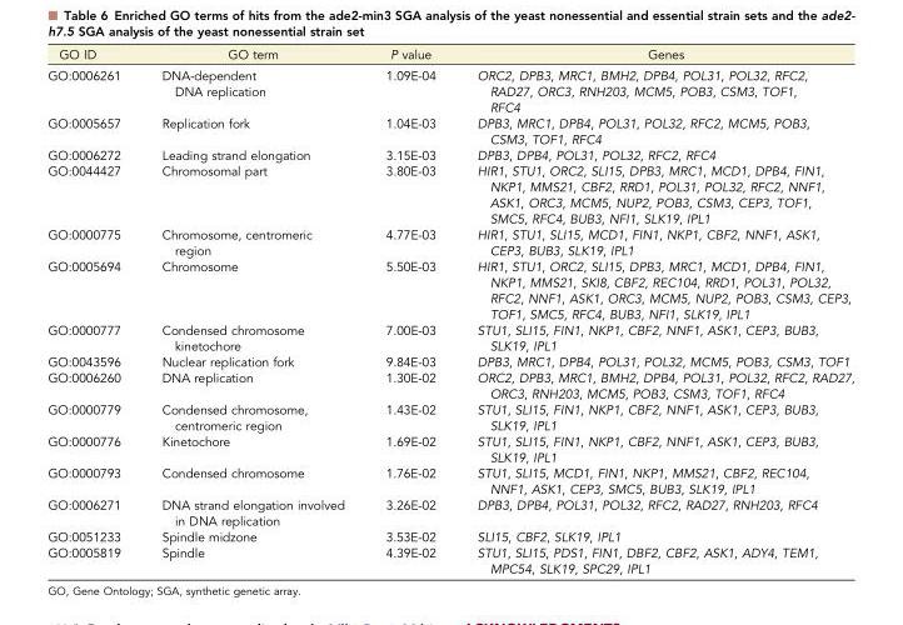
<table><thead><tr><td>GO ID</td><td>GO term</td><td>P value</td><td>Genes</td></tr></thead><tbody><tr><td>GO:0006261</td><td>DNA-dependent DNA replication</td><td>1.09E-04</td><td>ORC2, DPB3, MRC1, BMH2, DPB4, POL31, POL32, RFC2, RAD27, ORC3, RNH203, MCM5, POB3, CSM3, TOF1, RFC4</td></tr><tr><td>GO:0005657</td><td>Replication fork</td><td>1.04E-03</td><td>DPB3, MRC1, DPB4, POL31, POL32, RFC2, MCM5, POB3, CSM3, TOF1, RFC4</td></tr><tr><td>GO:0006272</td><td>Leading strand elongation</td><td>3.15E-03</td><td>DPB3, DPB4, POL31, POL32, RFC2, RFC4</td></tr><tr><td>GO:0044427</td><td>Chromosomal part</td><td>3.80E-03</td><td>HIR1, STU1, ORC2, SLI15, DPB3, MRC1, MCD1, DPB4, FIN1, NKP1, MMS21, CBF2, RRD1, POL31, POL32, RFC2, NNF1, ASK1, ORC3, MCM5, NUP2, POB3, CSM3, CEP3, TOF1, SMC5, RFC4, BUB3, NFI1, SLK19, IPL1</td></tr><tr><td>GO:0000775</td><td>Chromosome, centromeric region</td><td>4.77E-03</td><td>HIR1, STU1, SLI15, MCD1, FIN1, NKP1, CBF2, NNF1, ASK1, CEP3, BUB3, SLK19, IPL1</td></tr><tr><td>GO:0005694</td><td>Chromosome</td><td>5.50E-03</td><td>HIR1, STU1, ORC2, SLI15, DPB3, MRC1, MCD1, DPB4, FIN1, NKP1, MMS21, SKI8, CBF2, REC104, RRD1, POL31, POL32, RFC2, NNF1, ASK1, ORC3, MCM5, NUP2, POB3, CSM3, CEP3, TOF1, SMC5, RFC4, BUB3, NFI1, SLK19, IPL1</td></tr><tr><td>GO:0000777</td><td>Condensed chromosome kinetochore</td><td>7.00E-03</td><td>STU1, SLI15, FIN1, NKP1, CBF2, NNF1, ASK1, CEP3, BUB3, SLK19, IPL1</td></tr><tr><td>GO:0043596</td><td>Nuclear replication fork</td><td>9.84E-03</td><td>DPB3, MRC1, DPB4, POL31, POL32, MCM5, POB3, CSM3, TOF1</td></tr><tr><td>GO:0006260</td><td>DNA replication</td><td>1.30E-02</td><td>ORC2, DPB3, MRC1, BMH2, DPB4, POL31, POL32, RFC2, RAD27, ORC3, RNH203, MCM5, POB3, CSM3, TOF1, RFC4</td></tr><tr><td>GO:0000779</td><td>Condensed chromosome, centromeric region</td><td>1.43E-02</td><td>STU1, SLI15, FIN1, NKP1, CBF2, NNF1, ASK1, CEP3, BUB3, SLK19, IPL1</td></tr><tr><td>GO:0000776</td><td>Kinetochore</td><td>1.69E-02</td><td>STU1, SLI15, FIN1, NKP1, CBF2, NNF1, ASK1, CEP3, BUB3, SLK19, IPL1</td></tr><tr><td>GO:0000793</td><td>Condensed chromosome</td><td>1.76E-02</td><td>STU1, SLI15, MCD1, FIN1, NKP1, MMS21, CBF2, REC104, NNF1, ASK1, CEP3, SMC5, BUB3, SLK19, IPL1</td></tr><tr><td>GO:0006271</td><td>DNA strand elongation involved in DNA replication</td><td>3.26E-02</td><td>DPB3, DPB4, POL31, POL32, RFC2, RAD27, RNH203, RFC4</td></tr><tr><td>GO:0051233</td><td>Spindle midzone</td><td>3.53E-02</td><td>SLI15, CBF2, SLK19, IPL1</td></tr><tr><td>GO:0005819</td><td>Spindle</td><td>4.39E-02</td><td>STU1, SLI15, PDS1, FIN1, DBF2, CBF2, ASK1, ADY4, TEM1, MPC54, SLK19, SPC29, IPL1</td></tr></tbody></table>